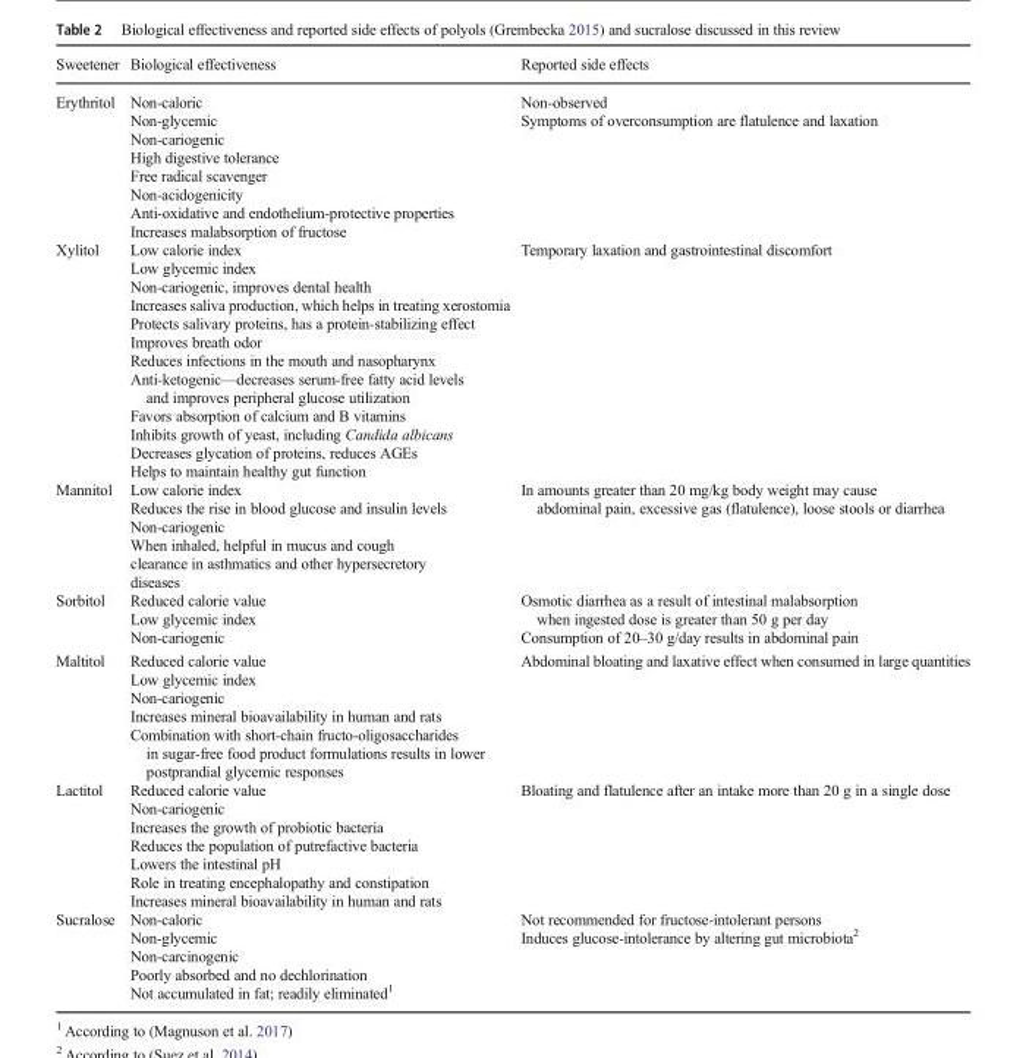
<table><thead><tr><td>Sweetener</td><td>Biological effectiveness</td><td>Reported side effects</td></tr></thead><tbody><tr><td>Erythritol</td><td>Non-caloric Non-glycemic Non-cariogenic High digestive tolerance Free radical scavenger Non-acidogenicity Anti-oxidative and endothelium-protective properties Increases malabsorption of fructose</td><td>Non-observed Symptoms of overconsumption are flatulence and laxation</td></tr><tr><td>Xylitol</td><td>Low calorie index Low glycemic index Non-cariogenic, improves dental health Increases saliva production, which helps in treating xerostomia Protects salivary proteins, has a protein-stabilizing effect Improves breath odor Reduces infections in the mouth and nasopharynx Anti-ketogenic—decreases serum-free fatty acid levels and improves peripheral glucose utilization Favors absorption of calcium and B vitamins Inhibits growth of yeast, including Candida albicans Decreases glycation of proteins, reduces AGEs Helps to maintain healthy gut function</td><td>Temporary laxation and gastrointestinal discomfort</td></tr><tr><td>Mannitol</td><td>Low calorie index Reduces the rise in blood glucose and insulin levels Non-cariogenic When inhaled, helpful in mucus and cough clearance in asthmatics and other hypersecretory diseases</td><td>In amounts greater than 20 mg/kg body weight may cause abdominal pain, excessive gas (flatulence), loose stools or diarrhea</td></tr><tr><td>Sorbitol</td><td>Reduced calorie value Low glycemic index Non-cariogenic</td><td>Osmotic diarrhea as a result of intestinal malabsorption when ingested dose is greater than 50 g per day Consumption of 20–30 g/day results in abdominal pain</td></tr><tr><td>Maltitol</td><td>Reduced calorie value Low glycemic index Non-cariogenic Increases mineral bioavailability in human and rats Combination with short-chain fructo-oligosaccharides in sugar-free food product formulations results in lower postprandial glycemic responses</td><td>Abdominal bloating and laxative effect when consumed in large quantities</td></tr><tr><td>Lactitol</td><td>Reduced calorie value Non-cariogenic Increases the growth of probiotic bacteria Reduces the population of putrefactive bacteria Lowers the intestinal pH Role in treating encephalopathy and constipation Increases mineral bioavailability in human and rats</td><td>Bloating and flatulence after an intake more than 20 g in a single dose</td></tr><tr><td>Sucralose</td><td>Non-caloric Non-glycemic Non-carcinogenic Poorly absorbed and no dechlorination Not accumulated in fat; readily eliminated<sup>1</sup></td><td>Not recommended for fructose-intolerant persons Induces glucose-intolerance by altering gut microbiota<sup>2</sup></td></tr></tbody></table>